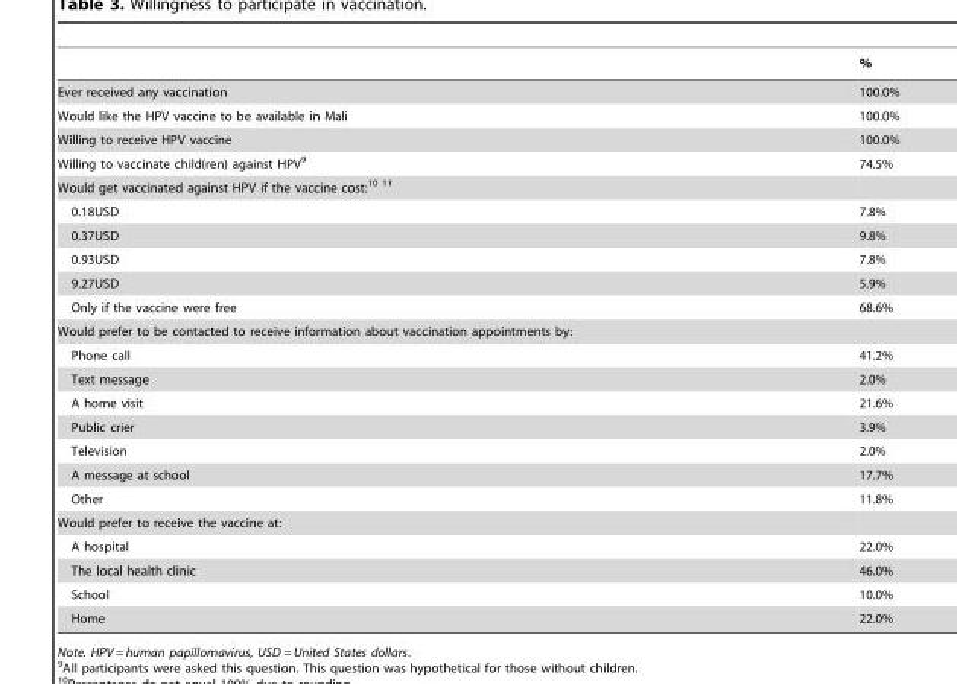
<table><thead><tr><td></td><td>%</td></tr></thead><tbody><tr><td>Ever received any vaccination</td><td>100.0%</td></tr><tr><td>Would like the HPV vaccine to be available in Mali</td><td>100.0%</td></tr><tr><td>Willing to receive HPV vaccine</td><td>100.0%</td></tr><tr><td>Willing to vaccinate child(ren) against HPV<sup>9</sup></td><td>74.5%</td></tr><tr><td colspan="2">Would get vaccinated against HPV if the vaccine cost:<sup>10 11</sup></td></tr><tr><td>0.18USD</td><td>7.8%</td></tr><tr><td>0.37USD</td><td>9.8%</td></tr><tr><td>0.93USD</td><td>7.8%</td></tr><tr><td>9.27USD</td><td>5.9%</td></tr><tr><td>Only if the vaccine were free</td><td>68.6%</td></tr><tr><td colspan="2">Would prefer to be contacted to receive information about vaccination appointments by:</td></tr><tr><td>Phone call</td><td>41.2%</td></tr><tr><td>Text message</td><td>2.0%</td></tr><tr><td>A home visit</td><td>21.6%</td></tr><tr><td>Public crier</td><td>3.9%</td></tr><tr><td>Television</td><td>2.0%</td></tr><tr><td>A message at school</td><td>17.7%</td></tr><tr><td>Other</td><td>11.8%</td></tr><tr><td colspan="2">Would prefer to receive the vaccine at:</td></tr><tr><td>A hospital</td><td>22.0%</td></tr><tr><td>The local health clinic</td><td>46.0%</td></tr><tr><td>School</td><td>10.0%</td></tr><tr><td>Home</td><td>22.0%</td></tr></tbody></table>